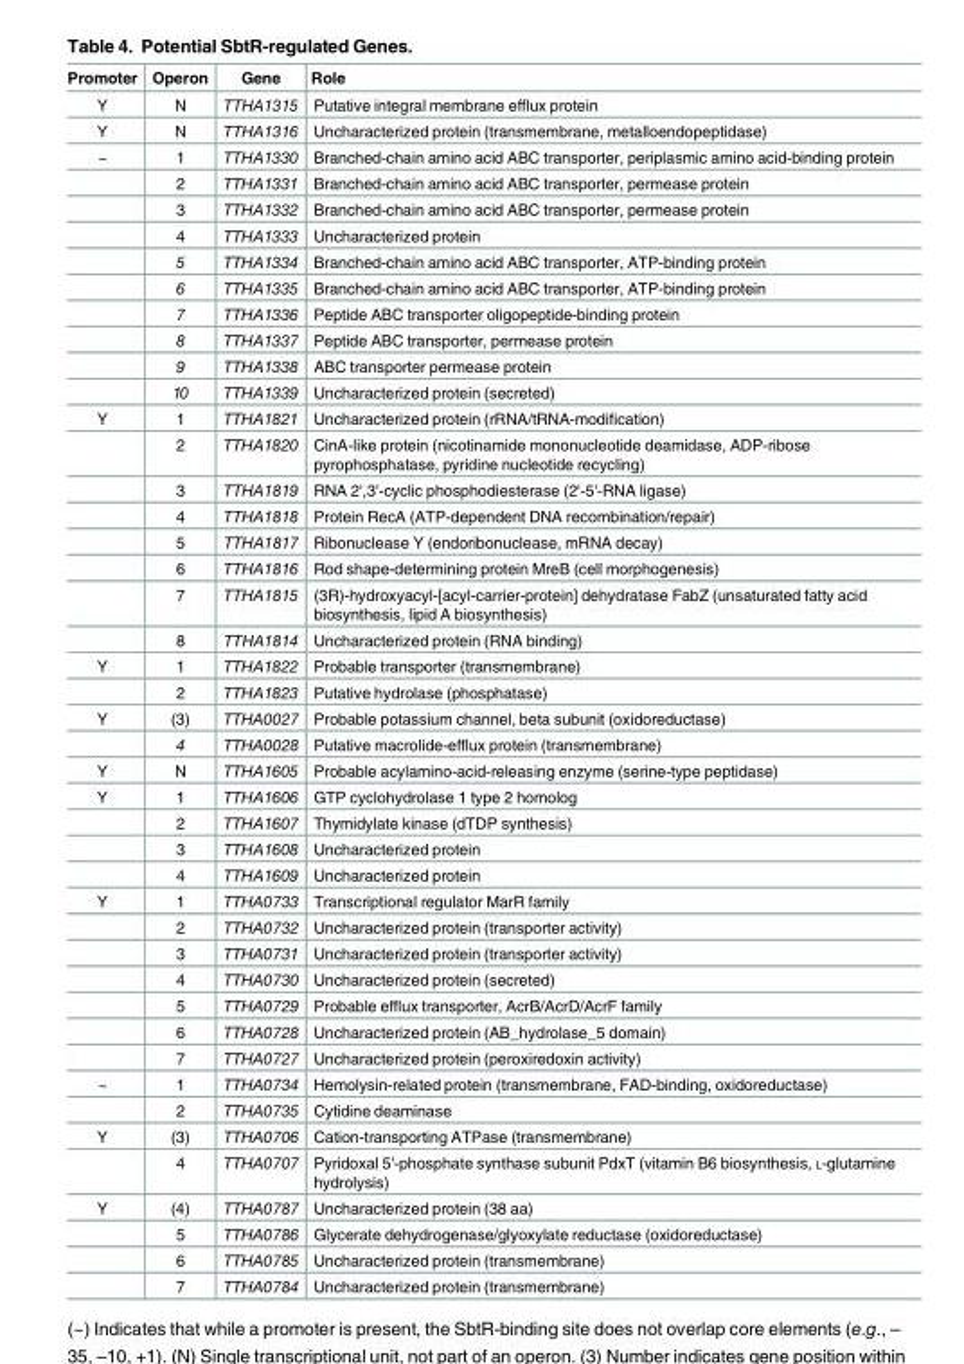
<table><thead><tr><td>Promoter</td><td>Operon</td><td>Gene</td><td>Role</td></tr></thead><tbody><tr><td>Y</td><td>N</td><td>TTHA1315</td><td>Putative integral membrane efflux protein</td></tr><tr><td>Y</td><td>N</td><td>TTHA1316</td><td>Uncharacterized protein (transmembrane, metalloendopeptidase)</td></tr><tr><td rowspan="10">~</td><td>1</td><td>TTHA1330</td><td>Branched-chain amino acid ABC transporter, periplasmic amino acid-binding protein</td></tr><tr><td>2</td><td>TTHA1331</td><td>Branched-chain amino acid ABC transporter, permease protein</td></tr><tr><td>3</td><td>TTHA1332</td><td>Branched-chain amino acid ABC transporter, permease protein</td></tr><tr><td>4</td><td>TTHA1333</td><td>Uncharacterized protein</td></tr><tr><td>5</td><td>TTHA1334</td><td>Branched-chain amino acid ABC transporter, ATP-binding protein</td></tr><tr><td>6</td><td>TTHA1335</td><td>Branched-chain amino acid ABC transporter, ATP-binding protein</td></tr><tr><td>7</td><td>TTHA1336</td><td>Peptide ABC transporter oligopeptide-binding protein</td></tr><tr><td>8</td><td>TTHA1337</td><td>Peptide ABC transporter, permease protein</td></tr><tr><td>9</td><td>TTHA1338</td><td>ABC transporter permease protein</td></tr><tr><td>10</td><td>TTHA1339</td><td>Uncharacterized protein (secreted)</td></tr><tr><td rowspan="8">Y</td><td>1</td><td>TTHA1821</td><td>Uncharacterized protein (rRNA/tRNA-modification)</td></tr><tr><td>2</td><td>TTHA1820</td><td>CinA-like protein (nicotinamide mononucleotide deamidase, ADP-ribose pyrophosphatase, pyridine nucleotide recycling)</td></tr><tr><td>3</td><td>TTHA1819</td><td>RNA 2&#x27;,3&#x27;-cyclic phosphodiesterase (2&#x27;-5&#x27;-RNA ligase)</td></tr><tr><td>4</td><td>TTHA1818</td><td>Protein RecA (ATP-dependent DNA recombination/repair)</td></tr><tr><td>5</td><td>TTHA1817</td><td>Ribonuclease Y (endoribonuclease, mRNA decay)</td></tr><tr><td>6</td><td>TTHA1816</td><td>Rod shape-determining protein MreB (cell morphogenesis)</td></tr><tr><td>7</td><td>TTHA1815</td><td>(3R)-hydroxyacyl-[acyl-carrier-protein] dehydratase FabZ (unsaturated fatty acid biosynthesis, lipid A biosynthesis)</td></tr><tr><td>8</td><td>TTHA1814</td><td>Uncharacterized protein (RNA binding)</td></tr><tr><td rowspan="2">Y</td><td>1</td><td>TTHA1822</td><td>Probable transporter (transmembrane)</td></tr><tr><td>2</td><td>TTHA1823</td><td>Putative hydrolase (phosphatase)</td></tr><tr><td rowspan="2">Y</td><td>(3)</td><td>TTHA0027</td><td>Probable potassium channel, beta subunit (oxidoreductase)</td></tr><tr><td>4</td><td>TTHA0028</td><td>Putative macrolide-efflux protein (transmembrane)</td></tr><tr><td>Y</td><td>N</td><td>TTHA1605</td><td>Probable acylamino-acid-releasing enzyme (serine-type peptidase)</td></tr><tr><td rowspan="4">Y</td><td>1</td><td>TTHA1606</td><td>GTP cyclohydrolase 1 type 2 homolog</td></tr><tr><td>2</td><td>TTHA1607</td><td>Thymidylate kinase (dTDP synthesis)</td></tr><tr><td>3</td><td>TTHA1608</td><td>Uncharacterized protein</td></tr><tr><td>4</td><td>TTHA1609</td><td>Uncharacterized protein</td></tr><tr><td rowspan="7">Y</td><td>1</td><td>TTHA0733</td><td>Transcriptional regulator MarR family</td></tr><tr><td>2</td><td>TTHA0732</td><td>Uncharacterized protein (transporter activity)</td></tr><tr><td>3</td><td>TTHA0731</td><td>Uncharacterized protein (transporter activity)</td></tr><tr><td>4</td><td>TTHA0730</td><td>Uncharacterized protein (secreted)</td></tr><tr><td>5</td><td>TTHA0729</td><td>Probable efflux transporter, AcrB/AcrD/AcrF family</td></tr><tr><td>6</td><td>TTHA0728</td><td>Uncharacterized protein (AB_hydrolase_5 domain)</td></tr><tr><td>7</td><td>TTHA0727</td><td>Uncharacterized protein (peroxiredoxin activity)</td></tr><tr><td rowspan="2">~</td><td>1</td><td>TTHA0734</td><td>Hemolysin-related protein (transmembrane, FAD-binding, oxidoreductase)</td></tr><tr><td>2</td><td>TTHA0735</td><td>Cytidine deaminase</td></tr><tr><td rowspan="2">Y</td><td>(3)</td><td>TTHA0706</td><td>Cation-transporting ATPase (transmembrane)</td></tr><tr><td>4</td><td>TTHA0707</td><td>Pyridoxal 5&#x27;-phosphate synthase subunit PdxT (vitamin B6 biosynthesis, L-glutamine hydrolysis)</td></tr><tr><td rowspan="4">Y</td><td>(4)</td><td>TTHA0787</td><td>Uncharacterized protein (38 aa)</td></tr><tr><td>5</td><td>TTHA0786</td><td>Glycerate dehydrogenase/glyoxylate reductase (oxidoreductase)</td></tr><tr><td>6</td><td>TTHA0785</td><td>Uncharacterized protein (transmembrane)</td></tr><tr><td>7</td><td>TTHA0784</td><td>Uncharacterized protein (transmembrane)</td></tr></tbody></table>